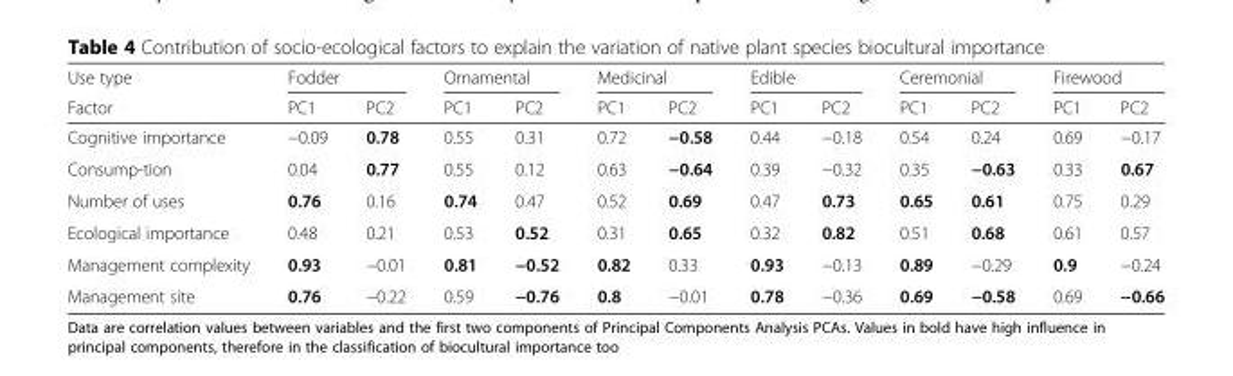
<table><thead><tr><td rowspan="2">Use type Factor</td><td colspan="2">Fodder</td><td colspan="2">Ornamental</td><td colspan="2">Medicinal</td><td colspan="2">Edible</td><td colspan="2">Ceremonial</td><td colspan="2">Firewood</td></tr><tr><td>PC1</td><td>PC2</td><td>PC1</td><td>PC2</td><td>PC1</td><td>PC2</td><td>PC1</td><td>PC2</td><td>PC1</td><td>PC2</td><td>PC1</td><td>PC2</td></tr></thead><tbody><tr><td>Cognitive importance</td><td>−0.09</td><td>0.78</td><td>0.55</td><td>0.31</td><td>0.72</td><td>−0.58</td><td>0.44</td><td>−0.18</td><td>0.54</td><td>0.24</td><td>0.69</td><td>−0.17</td></tr><tr><td>Consump-tion</td><td>0.04</td><td>0.77</td><td>0.55</td><td>0.12</td><td>0.63</td><td>−0.64</td><td>0.39</td><td>−0.32</td><td>0.35</td><td>−0.63</td><td>0.33</td><td>0.67</td></tr><tr><td>Number of uses</td><td>0.76</td><td>0.16</td><td>0.74</td><td>0.47</td><td>0.52</td><td>0.69</td><td>0.47</td><td>0.73</td><td>0.65</td><td>0.61</td><td>0.75</td><td>0.29</td></tr><tr><td>Ecological importance</td><td>0.48</td><td>0.21</td><td>0.53</td><td>0.52</td><td>0.31</td><td>0.65</td><td>0.32</td><td>0.82</td><td>0.51</td><td>0.68</td><td>0.61</td><td>0.57</td></tr><tr><td>Management complexity</td><td>0.93</td><td>−0.01</td><td>0.81</td><td>−0.52</td><td>0.82</td><td>0.33</td><td>0.93</td><td>−0.13</td><td>0.89</td><td>−0.29</td><td>0.9</td><td>−0.24</td></tr><tr><td>Management site</td><td>0.76</td><td>−0.22</td><td>0.59</td><td>−0.76</td><td>0.8</td><td>−0.01</td><td>0.78</td><td>−0.36</td><td>0.69</td><td>−0.58</td><td>0.69</td><td>−0.66</td></tr></tbody></table>